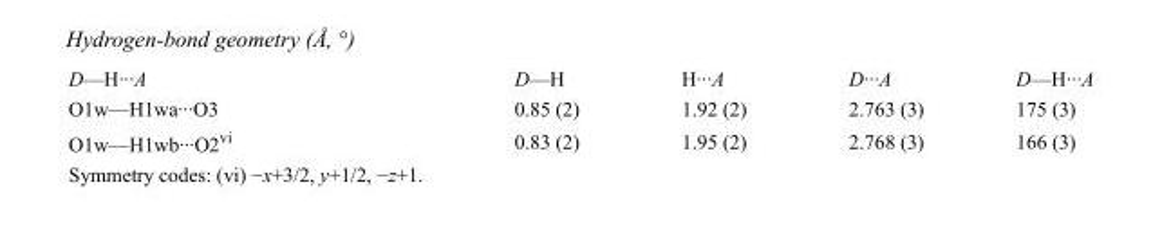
<table><tbody><tr><td>D—H···A</td><td>D—H</td><td>H···A</td><td>D···A</td><td>D—H···A</td></tr><tr><td>O1w—H1wa···O3</td><td>0.85 (2)</td><td>1.92 (2)</td><td>2.763 (3)</td><td>175 (3)</td></tr><tr><td>O1w—H1wb···O2<sup>vi</sup></td><td>0.83 (2)</td><td>1.95 (2)</td><td>2.768 (3)</td><td>166 (3)</td></tr></tbody></table>